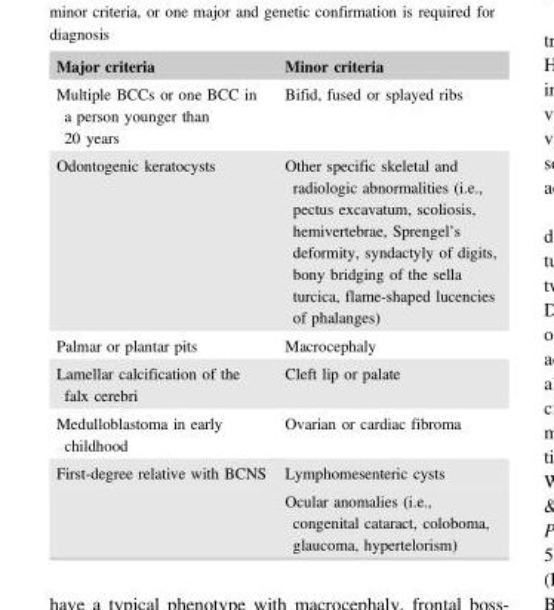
<table><thead><tr><td>Major criteria</td><td>Minor criteria</td></tr></thead><tbody><tr><td>Multiple BCCs or one BCC in a person younger than 20 years</td><td>Bifid, fused or splayed ribs</td></tr><tr><td>Odontogenic keratocysts</td><td>Other specific skeletal and radiologic abnormalities (i.e., pectus excavatum, scoliosis, hemivertebrae, Sprengel’s deformity, syndactyly of digits, bony bridging of the sella turcica, flame-shaped lucencies of phalanges)</td></tr><tr><td>Palmar or plantar pits</td><td>Macrocephaly</td></tr><tr><td>Lamellar calcification of the falx cerebri</td><td>Cleft lip or palate</td></tr><tr><td>Medulloblastoma in early childhood</td><td>Ovarian or cardiac fibroma</td></tr><tr><td rowspan="2">First-degree relative with BCNS</td><td>Lymphomesenteric cysts</td></tr><tr><td>Ocular anomalies (i.e., congenital cataract, coloboma, glaucoma, hypertelorism)</td></tr></tbody></table>